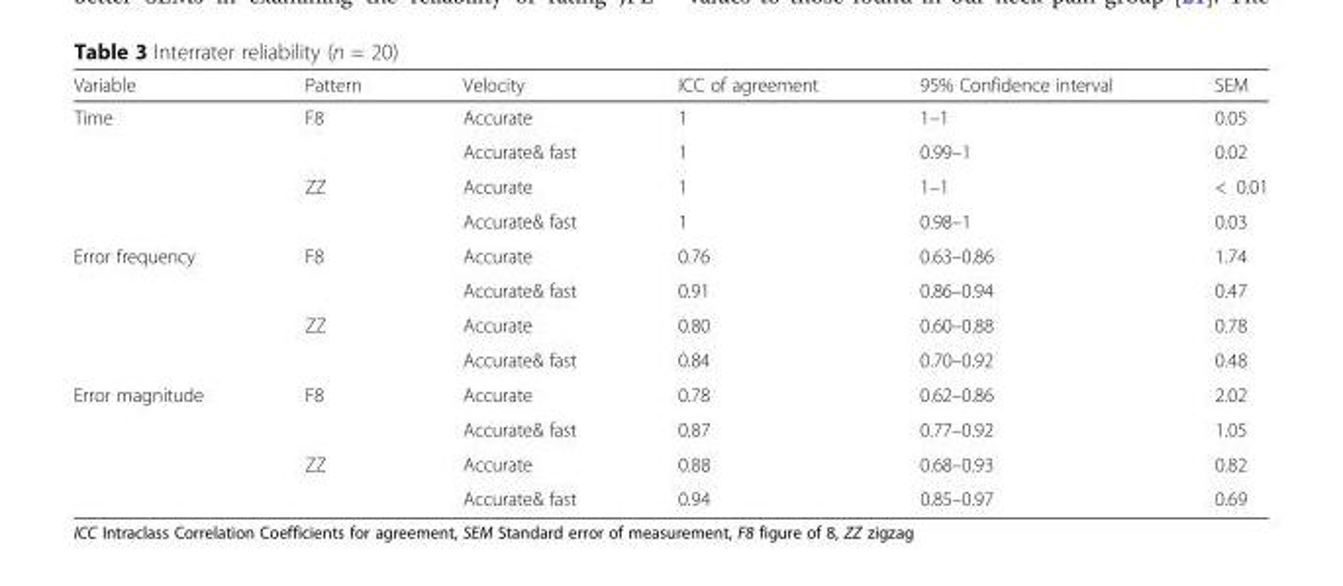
<table><thead><tr><td>Variable</td><td>Pattern</td><td>Velocity</td><td>ICC of agreement</td><td>95% Confidence interval</td><td>SEM</td></tr></thead><tbody><tr><td rowspan="4">Time</td><td rowspan="2">F8</td><td>Accurate</td><td>1</td><td>1–1</td><td>0.05</td></tr><tr><td>Accurate&amp; fast</td><td>1</td><td>0.99–1</td><td>0.02</td></tr><tr><td rowspan="2">ZZ</td><td>Accurate</td><td>1</td><td>1–1</td><td>&lt; 0.01</td></tr><tr><td>Accurate&amp; fast</td><td>1</td><td>0.98–1</td><td>0.03</td></tr><tr><td rowspan="4">Error frequency</td><td rowspan="2">F8</td><td>Accurate</td><td>0.76</td><td>0.63–0.86</td><td>1.74</td></tr><tr><td>Accurate&amp; fast</td><td>0.91</td><td>0.86–0.94</td><td>0.47</td></tr><tr><td rowspan="2">ZZ</td><td>Accurate</td><td>0.80</td><td>0.60–0.88</td><td>0.78</td></tr><tr><td>Accurate&amp; fast</td><td>0.84</td><td>0.70–0.92</td><td>0.48</td></tr><tr><td rowspan="4">Error magnitude</td><td rowspan="2">F8</td><td>Accurate</td><td>0.78</td><td>0.62–0.86</td><td>2.02</td></tr><tr><td>Accurate&amp; fast</td><td>0.87</td><td>0.77–0.92</td><td>1.05</td></tr><tr><td rowspan="2">ZZ</td><td>Accurate</td><td>0.88</td><td>0.68–0.93</td><td>0.82</td></tr><tr><td>Accurate&amp; fast</td><td>0.94</td><td>0.85–0.97</td><td>0.69</td></tr></tbody></table>